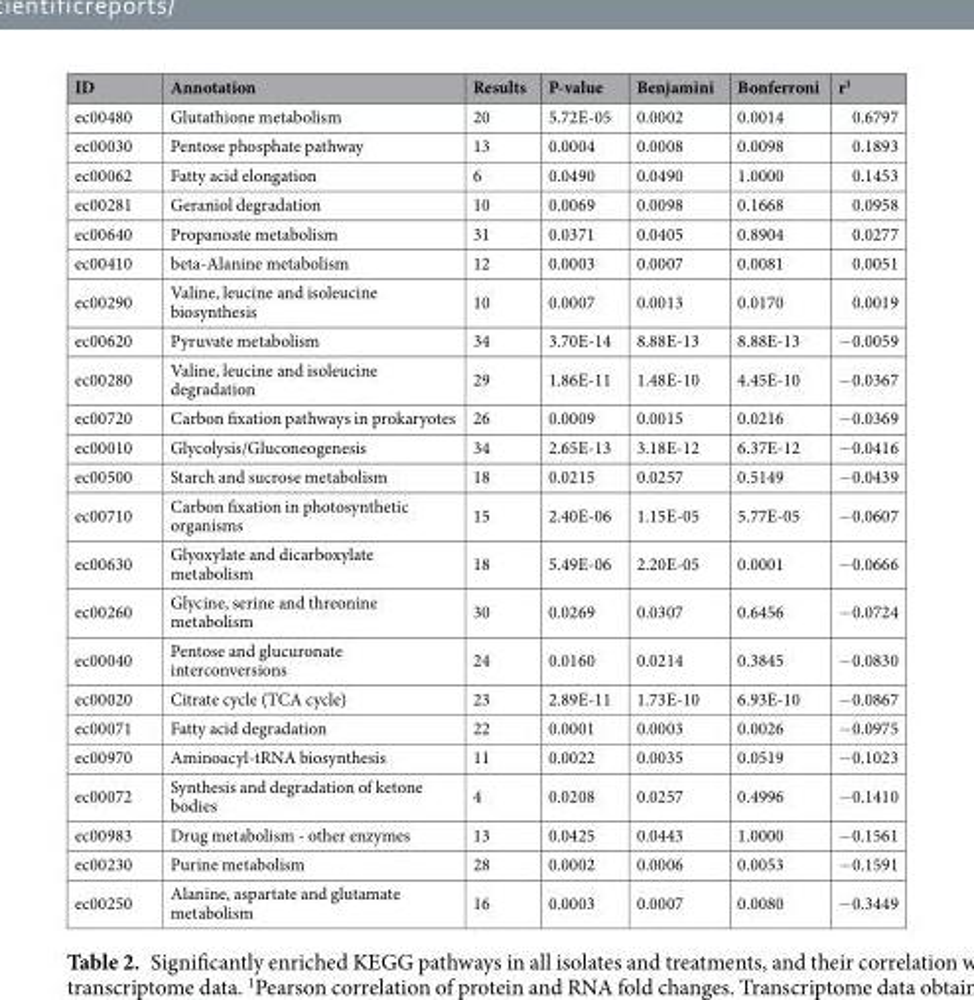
<table><thead><tr><td>ID</td><td>Annotation</td><td>Results</td><td>P-value</td><td>Benjamini</td><td>Bonferroni</td><td>r<sup>1</sup></td></tr></thead><tbody><tr><td>ec00480</td><td>Glutathione metabolism</td><td>20</td><td>5.72E-05</td><td>0.0002</td><td>0.0014</td><td>0.6797</td></tr><tr><td>ec00030</td><td>Pentose phosphate pathway</td><td>13</td><td>0.0004</td><td>0.0008</td><td>0.0098</td><td>0.1893</td></tr><tr><td>ec00062</td><td>Fatty acid elongation</td><td>6</td><td>0.0490</td><td>0.0490</td><td>1.0000</td><td>0.1453</td></tr><tr><td>ec00281</td><td>Geraniol degradation</td><td>10</td><td>0.0069</td><td>0.0098</td><td>0.1668</td><td>0.0958</td></tr><tr><td>ec00640</td><td>Propanoate metabolism</td><td>31</td><td>0.0371</td><td>0.0405</td><td>0.8904</td><td>0.0277</td></tr><tr><td>ec00410</td><td>beta-Alanine metabolism</td><td>12</td><td>0.0003</td><td>0.0007</td><td>0.0081</td><td>0.0051</td></tr><tr><td>ec00290</td><td>Valine, leucine and isoleucine biosynthesis</td><td>10</td><td>0.0007</td><td>0.0013</td><td>0.0170</td><td>0.0019</td></tr><tr><td>ec00620</td><td>Pyruvate metabolism</td><td>34</td><td>3.70E-14</td><td>8.88E-13</td><td>8.88E-13</td><td>−0.0059</td></tr><tr><td>ec00280</td><td>Valine, leucine and isoleucine degradation</td><td>29</td><td>1.86E-11</td><td>1.48E-10</td><td>4.45E-10</td><td>−0.0367</td></tr><tr><td>ec00720</td><td>Carbon fixation pathways in prokaryotes</td><td>26</td><td>0.0009</td><td>0.0015</td><td>0.0216</td><td>−0.0369</td></tr><tr><td>ec00010</td><td>Glycolysis/Gluconeogenesis</td><td>34</td><td>2.65E-13</td><td>3.18E-12</td><td>6.37E-12</td><td>−0.0416</td></tr><tr><td>ec00500</td><td>Starch and sucrose metabolism</td><td>18</td><td>0.0215</td><td>0.0257</td><td>0.5149</td><td>−0.0439</td></tr><tr><td>ec00710</td><td>Carbon fixation in photosynthetic organisms</td><td>15</td><td>2.40E-06</td><td>1.15E-05</td><td>5.77E-05</td><td>−0.0607</td></tr><tr><td>ec00630</td><td>Glyoxylate and dicarboxylate metabolism</td><td>18</td><td>5.49E-06</td><td>2.20E-05</td><td>0.0001</td><td>−0.0666</td></tr><tr><td>ec00260</td><td>Glycine, serine and threonine metabolism</td><td>30</td><td>0.0269</td><td>0.0307</td><td>0.6456</td><td>−0.0724</td></tr><tr><td>ec00040</td><td>Pentose and glucuronate interconversions</td><td>24</td><td>0.0160</td><td>0.0214</td><td>0.3845</td><td>−0.0830</td></tr><tr><td>ec00020</td><td>Citrate cycle (TCA cycle)</td><td>23</td><td>2.89E-11</td><td>1.73E-10</td><td>6.93E-10</td><td>−0.0867</td></tr><tr><td>ec00071</td><td>Fatty acid degradation</td><td>22</td><td>0.0001</td><td>0.0003</td><td>0.0026</td><td>−0.0975</td></tr><tr><td>ec00970</td><td>Aminoacyl-tRNA biosynthesis</td><td>11</td><td>0.0022</td><td>0.0035</td><td>0.0519</td><td>−0.1023</td></tr><tr><td>ec00072</td><td>Synthesis and degradation of ketone bodies</td><td>4</td><td>0.0208</td><td>0.0257</td><td>0.4996</td><td>−0.1410</td></tr><tr><td>ec00983</td><td>Drug metabolism - other enzymes</td><td>13</td><td>0.0425</td><td>0.0443</td><td>1.0000</td><td>−0.1561</td></tr><tr><td>ec00230</td><td>Purine metabolism</td><td>28</td><td>0.0002</td><td>0.0006</td><td>0.0053</td><td>−0.1591</td></tr><tr><td>ec00250</td><td>Alanine, aspartate and glutamate metabolism</td><td>16</td><td>0.0003</td><td>0.0007</td><td>0.0080</td><td>−0.3449</td></tr></tbody></table>